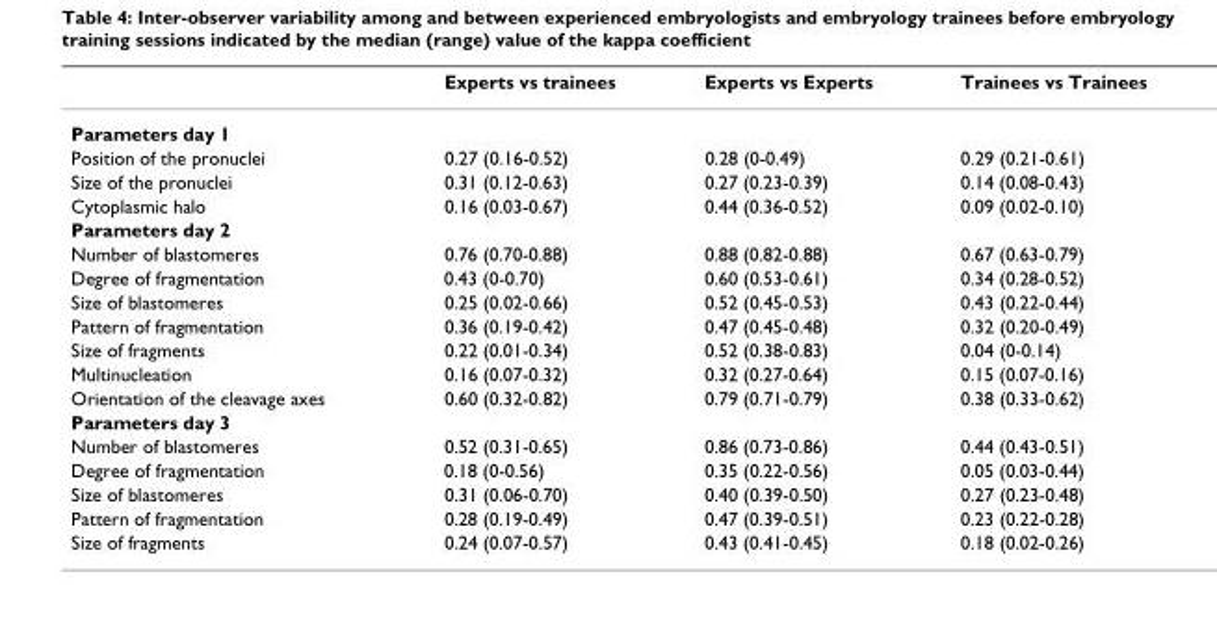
<table><thead><tr><td></td><td>Experts vs trainees</td><td>Experts vs Experts</td><td>Trainees vs Trainees</td></tr></thead><tbody><tr><td colspan="4">Parameters day 1</td></tr><tr><td>Position of the pronuclei</td><td>0.27 (0.16-0.52)</td><td>0.28 (0-0.49)</td><td>0.29 (0.21-0.61)</td></tr><tr><td>Size of the pronuclei</td><td>0.31 (0.12-0.63)</td><td>0.27 (0.23-0.39)</td><td>0.14 (0.08-0.43)</td></tr><tr><td>Cytoplasmic halo</td><td>0.16 (0.03-0.67)</td><td>0.44 (0.36-0.52)</td><td>0.09 (0.02-0.10)</td></tr><tr><td colspan="4">Parameters day 2</td></tr><tr><td>Number of blastomeres</td><td>0.76 (0.70-0.88)</td><td>0.88 (0.82-0.88)</td><td>0.67 (0.63-0.79)</td></tr><tr><td>Degree of fragmentation</td><td>0.43 (0-0.70)</td><td>0.60 (0.53-0.61)</td><td>0.34 (0.28-0.52)</td></tr><tr><td>Size of blastomeres</td><td>0.25 (0.02-0.66)</td><td>0.52 (0.45-0.53)</td><td>0.43 (0.22-0.44)</td></tr><tr><td>Pattern of fragmentation</td><td>0.36 (0.19-0.42)</td><td>0.47 (0.45-0.48)</td><td>0.32 (0.20-0.49)</td></tr><tr><td>Size of fragments</td><td>0.22 (0.01-0.34)</td><td>0.52 (0.38-0.83)</td><td>0.04 (0-0.14)</td></tr><tr><td>Multinucleation</td><td>0.16 (0.07-0.32)</td><td>0.32 (0.27-0.64)</td><td>0.15 (0.07-0.16)</td></tr><tr><td>Orientation of the cleavage axes</td><td>0.60 (0.32-0.82)</td><td>0.79 (0.71-0.79)</td><td>0.38 (0.33-0.62)</td></tr><tr><td colspan="4">Parameters day 3</td></tr><tr><td>Number of blastomeres</td><td>0.52 (0.31-0.65)</td><td>0.86 (0.73-0.86)</td><td>0.44 (0.43-0.51)</td></tr><tr><td>Degree of fragmentation</td><td>0.18 (0-0.56)</td><td>0.35 (0.22-0.56)</td><td>0.05 (0.03-0.44)</td></tr><tr><td>Size of blastomeres</td><td>0.31 (0.06-0.70)</td><td>0.40 (0.39-0.50)</td><td>0.27 (0.23-0.48)</td></tr><tr><td>Pattern of fragmentation</td><td>0.28 (0.19-0.49)</td><td>0.47 (0.39-0.51)</td><td>0.23 (0.22-0.28)</td></tr><tr><td>Size of fragments</td><td>0.24 (0.07-0.57)</td><td>0.43 (0.41-0.45)</td><td>0.18 (0.02-0.26)</td></tr></tbody></table>